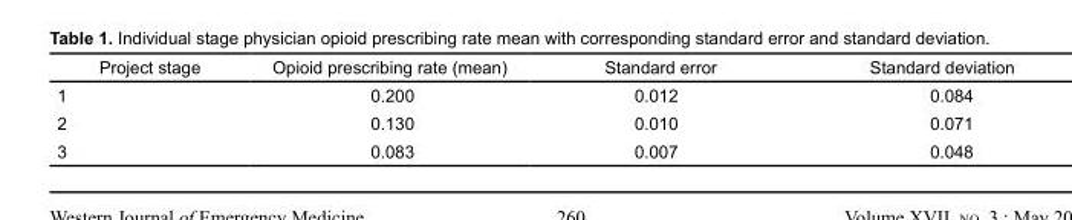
<table><thead><tr><td>Project stage</td><td>Opioid prescribing rate (mean)</td><td>Standard error</td><td>Standard deviation</td></tr></thead><tbody><tr><td>1</td><td>0.200</td><td>0.012</td><td>0.084</td></tr><tr><td>2</td><td>0.130</td><td>0.010</td><td>0.071</td></tr><tr><td>3</td><td>0.083</td><td>0.007</td><td>0.048</td></tr></tbody></table>